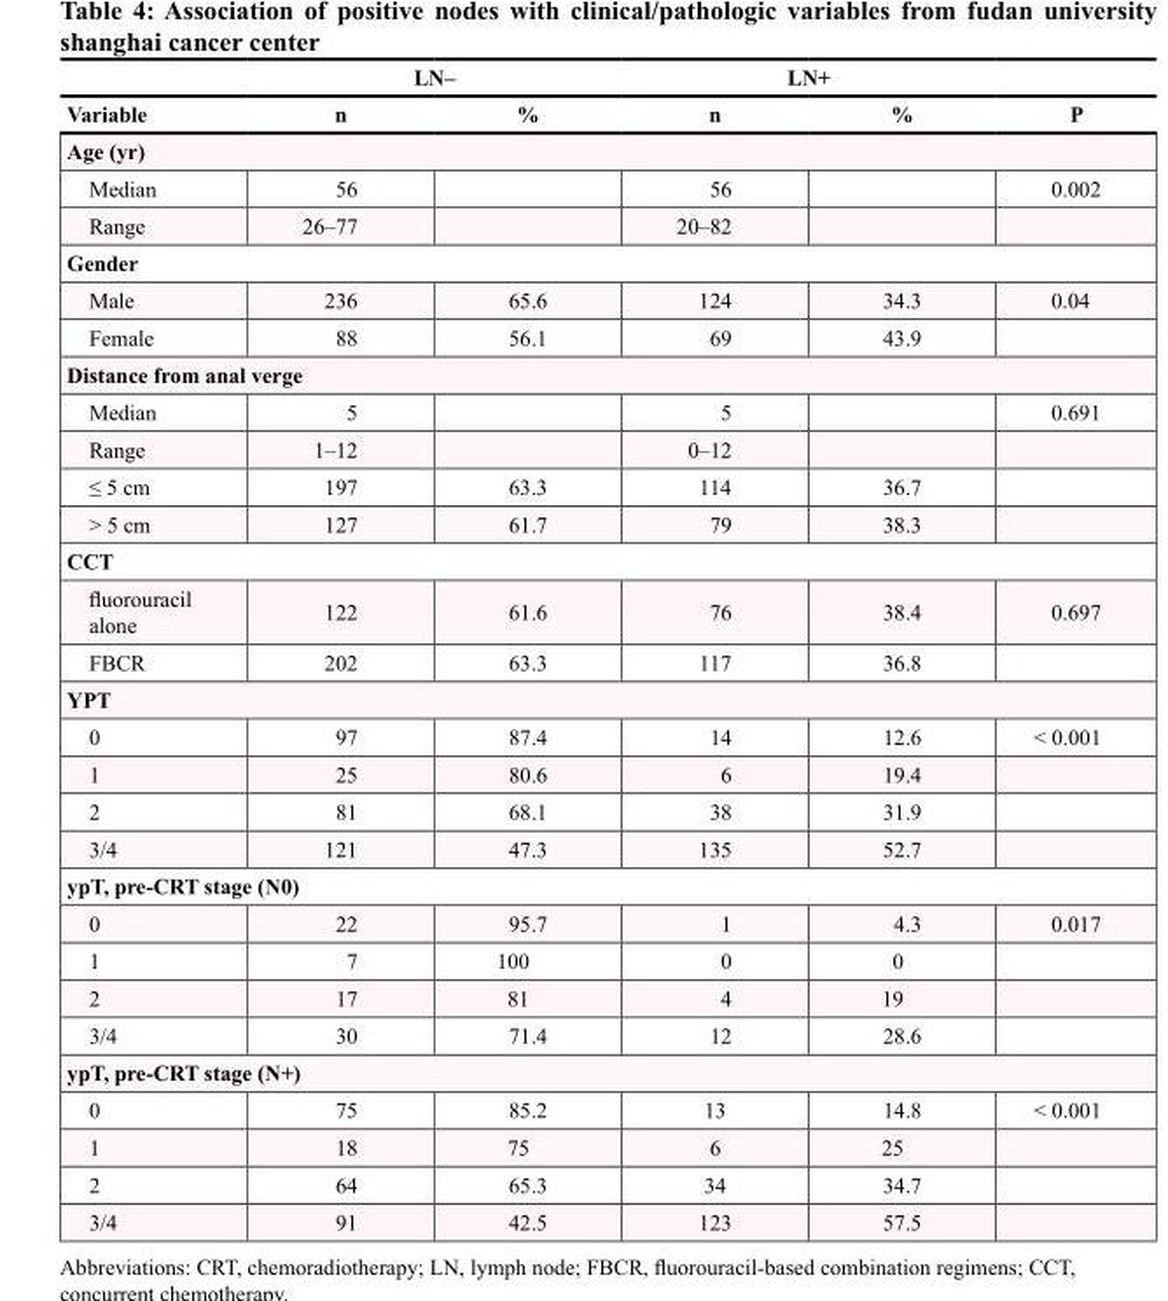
<table><thead><tr><td rowspan="2">Variable</td><td colspan="2">LN–</td><td colspan="2">LN+</td><td rowspan="2">P</td></tr><tr><td>n</td><td>%</td><td>n</td><td>%</td></tr></thead><tbody><tr><td colspan="6">Age (yr)</td></tr><tr><td>Median</td><td>56</td><td></td><td>56</td><td></td><td>0.002</td></tr><tr><td>Range</td><td>26–77</td><td></td><td>20–82</td><td></td><td></td></tr><tr><td colspan="6">Gender</td></tr><tr><td>Male</td><td>236</td><td>65.6</td><td>124</td><td>34.3</td><td>0.04</td></tr><tr><td>Female</td><td>88</td><td>56.1</td><td>69</td><td>43.9</td><td></td></tr><tr><td colspan="6">Distance from anal verge</td></tr><tr><td>Median</td><td>5</td><td></td><td>5</td><td></td><td>0.691</td></tr><tr><td>Range</td><td>1–12</td><td></td><td>0–12</td><td></td><td></td></tr><tr><td>≤ 5 cm</td><td>197</td><td>63.3</td><td>114</td><td>36.7</td><td></td></tr><tr><td>&gt; 5 cm</td><td>127</td><td>61.7</td><td>79</td><td>38.3</td><td></td></tr><tr><td colspan="6">CCT</td></tr><tr><td>fluorouracil alone</td><td>122</td><td>61.6</td><td>76</td><td>38.4</td><td>0.697</td></tr><tr><td>FBCR</td><td>202</td><td>63.3</td><td>117</td><td>36.8</td><td></td></tr><tr><td colspan="6">YPT</td></tr><tr><td>0</td><td>97</td><td>87.4</td><td>14</td><td>12.6</td><td>&lt; 0.001</td></tr><tr><td>1</td><td>25</td><td>80.6</td><td>6</td><td>19.4</td><td></td></tr><tr><td>2</td><td>81</td><td>68.1</td><td>38</td><td>31.9</td><td></td></tr><tr><td>3/4</td><td>121</td><td>47.3</td><td>135</td><td>52.7</td><td></td></tr><tr><td colspan="6">ypT, pre-CRT stage (N0)</td></tr><tr><td>0</td><td>22</td><td>95.7</td><td>1</td><td>4.3</td><td>0.017</td></tr><tr><td>1</td><td>7</td><td>100</td><td>0</td><td>0</td><td></td></tr><tr><td>2</td><td>17</td><td>81</td><td>4</td><td>19</td><td></td></tr><tr><td>3/4</td><td>30</td><td>71.4</td><td>12</td><td>28.6</td><td></td></tr><tr><td colspan="6">ypT, pre-CRT stage (N+)</td></tr><tr><td>0</td><td>75</td><td>85.2</td><td>13</td><td>14.8</td><td>&lt; 0.001</td></tr><tr><td>1</td><td>18</td><td>75</td><td>6</td><td>25</td><td></td></tr><tr><td>2</td><td>64</td><td>65.3</td><td>34</td><td>34.7</td><td></td></tr><tr><td>3/4</td><td>91</td><td>42.5</td><td>123</td><td>57.5</td><td></td></tr></tbody></table>